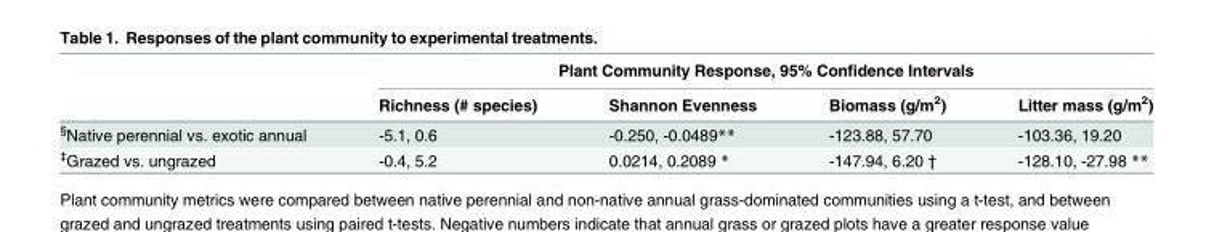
<table><thead><tr><td rowspan="2"></td><td colspan="4">Plant Community Response, 95% Confidence Intervals</td></tr><tr><td>Richness (# species)</td><td>Shannon Evenness</td><td>Biomass (g/m<sup>2</sup>)</td><td>Litter mass (g/m<sup>2</sup>)</td></tr></thead><tbody><tr><td><sup>§</sup>Native perennial vs. exotic annual</td><td>-5.1, 0.6</td><td>-0.250, -0.0489**</td><td>-123.88, 57.70</td><td>-103.36, 19.20</td></tr><tr><td><sup>‡</sup>Grazed vs. ungrazed</td><td>-0.4, 5.2</td><td>0.0214, 0.2089 *</td><td>-147.94, 6.20 †</td><td>-128.10, -27.98 **</td></tr></tbody></table>